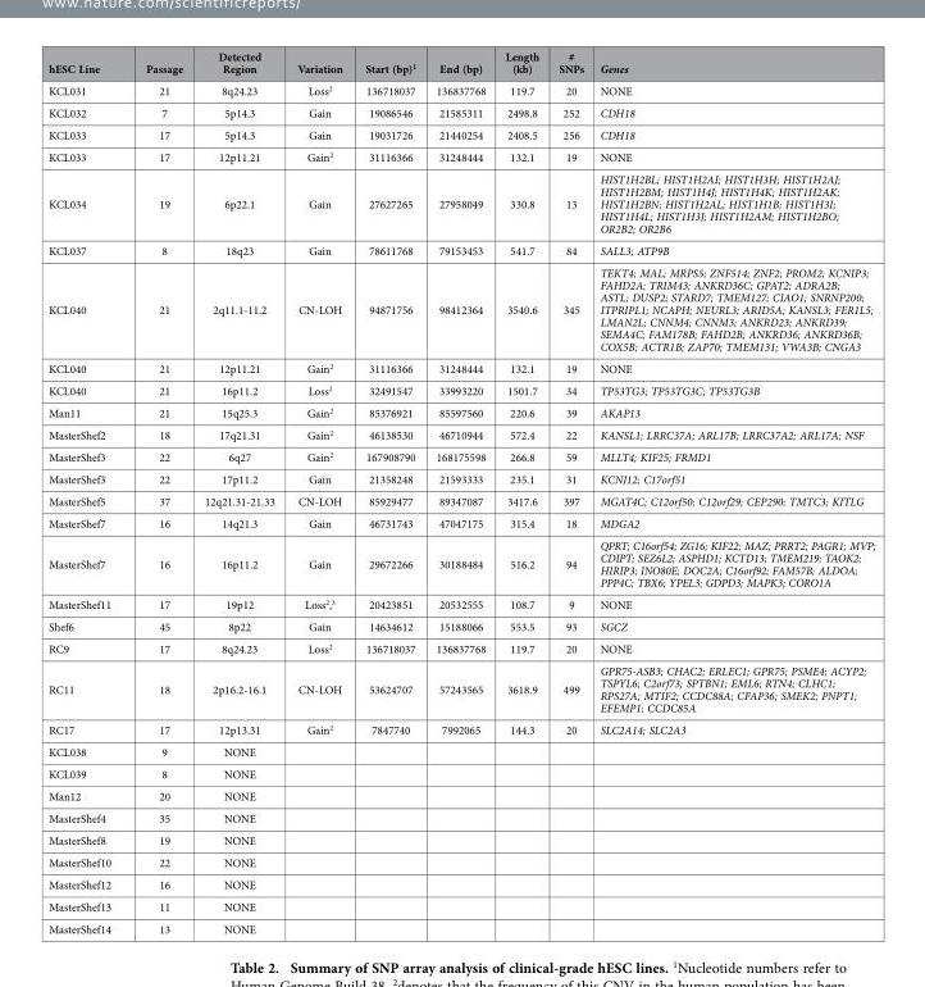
<table><thead><tr><td>hESC Line</td><td>Passage</td><td>Detected Region</td><td>Variation</td><td>Start (bp)<sup>1</sup></td><td>End (bp)</td><td>Length (kb)</td><td># SNPs</td><td>Genes</td></tr></thead><tbody><tr><td>KCL031</td><td>21</td><td>8q24.23</td><td>Loss<sup>2</sup></td><td>136718037</td><td>136837768</td><td>119.7</td><td>20</td><td>NONE</td></tr><tr><td>KCL032</td><td>7</td><td>5p14.3</td><td>Gain</td><td>19086546</td><td>21585311</td><td>2498.8</td><td>252</td><td>CDH18</td></tr><tr><td>KCL033</td><td>17</td><td>5p14.3</td><td>Gain</td><td>19031726</td><td>21440254</td><td>2408.5</td><td>256</td><td>CDH18</td></tr><tr><td>KCL033</td><td>17</td><td>12p11.21</td><td>Gain<sup>2</sup></td><td>31116366</td><td>31248444</td><td>132.1</td><td>19</td><td>NONE</td></tr><tr><td>KCL034</td><td>19</td><td>6p22.1</td><td>Gain</td><td>27627265</td><td>27958049</td><td>330.8</td><td>13</td><td>HIST1H2BL; HIST1H2AI; HIST1H3H; HIST1H2AJ; HIST1H2BM; HIST1H4J; HIST1H4K; HIST1H2AK; HIST1H2BN; HIST1H2AL; HIST1H1B; HIST1H3I; HIST1H4L; HIST1H3J; HIST1H2AM; HIST1H2BO; OR2B2; OR2B6</td></tr><tr><td>KCL037</td><td>8</td><td>18q23</td><td>Gain</td><td>78611768</td><td>79153453</td><td>541.7</td><td>84</td><td>SALL3; ATP9B</td></tr><tr><td>KCL040</td><td>21</td><td>2q11.1-11.2</td><td>CN-LOH</td><td>94871756</td><td>98412364</td><td>3540.6</td><td>345</td><td>TEKT4; MAL; MRPS5; ZNF514; ZNF2; PROM2; KCNIP3; FAHD2A; TRIM43; ANKRD36C; GPAT2; ADRA2B; ASTL; DUSP2; STARD7; TMEM127; CIAO1; SNRNP200; ITPRIPL1; NCAPH; NEURL3; ARID5A; KANSL3; FER1L5; LMAN2L; CNNM4; CNNM3; ANKRD23; ANKRD39; SEMA4C; FAM178B; FAHD2B; ANKRD36; ANKRD36B; COX5B; ACTR1B; ZAP70; TMEM131; VWA3B; CNGA3</td></tr><tr><td>KCL040</td><td>21</td><td>12p11.21</td><td>Gain<sup>2</sup></td><td>31116366</td><td>31248444</td><td>132.1</td><td>19</td><td>NONE</td></tr><tr><td>KCL040</td><td>21</td><td>16p11.2</td><td>Loss<sup>2</sup></td><td>32491547</td><td>33993220</td><td>1501.7</td><td>34</td><td>TP53TG3; TP53TG3C; TP53TG3B</td></tr><tr><td>Man11</td><td>21</td><td>15q25.3</td><td>Gain<sup>2</sup></td><td>85376921</td><td>85597560</td><td>220.6</td><td>39</td><td>AKAP13</td></tr><tr><td>MasterShef2</td><td>18</td><td>17q21.31</td><td>Gain<sup>2</sup></td><td>46138530</td><td>46710944</td><td>572.4</td><td>22</td><td>KANSL1; LRRC37A; ARL17B; LRRC37A2; ARL17A; NSF</td></tr><tr><td>MasterShef3</td><td>22</td><td>6q27</td><td>Gain<sup>2</sup></td><td>167908790</td><td>168175598</td><td>266.8</td><td>59</td><td>MLLT4; KIF25; FRMD1</td></tr><tr><td>MasterShef3</td><td>22</td><td>17p11.2</td><td>Gain</td><td>21358248</td><td>21593333</td><td>235.1</td><td>31</td><td>KCNJ12; C17orf51</td></tr><tr><td>MasterShef5</td><td>37</td><td>12q21.31-21.33</td><td>CN-LOH</td><td>85929477</td><td>89347087</td><td>3417.6</td><td>397</td><td>MGAT4C; C12orf50; C12orf29; CEP290; TMTC3; KITLG</td></tr><tr><td>MasterShef7</td><td>16</td><td>14q21.3</td><td>Gain</td><td>46731743</td><td>47047175</td><td>315.4</td><td>18</td><td>MDGA2</td></tr><tr><td>MasterShef7</td><td>16</td><td>16p11.2</td><td>Gain</td><td>29672266</td><td>30188484</td><td>516.2</td><td>94</td><td>QPRT; C16orf54; ZG16; KIF22; MAZ; PRRT2; PAGR1; MVP; CDIPT; SEZ6L2; ASPHD1; KCTD13; TMEM219; TAOK2; HIRIP3; INO80E; DOC2A; C16orf92; FAM57B; ALDOA; PPP4C; TBX6; YPEL3; GDPD3; MAPK3; CORO1A</td></tr><tr><td>MasterShef11</td><td>17</td><td>19p12</td><td>Loss<sup>2</sup>,<sup>3</sup></td><td>20423851</td><td>20532555</td><td>108.7</td><td>9</td><td>NONE</td></tr><tr><td>Shef6</td><td>45</td><td>8p22</td><td>Gain</td><td>14634612</td><td>15188066</td><td>553.5</td><td>93</td><td>SGCZ</td></tr><tr><td>RC9</td><td>17</td><td>8q24.23</td><td>Loss<sup>2</sup></td><td>136718037</td><td>136837768</td><td>119.7</td><td>20</td><td>NONE</td></tr><tr><td>RC11</td><td>18</td><td>2p16.2-16.1</td><td>CN-LOH</td><td>53624707</td><td>57243565</td><td>3618.9</td><td>499</td><td>GPR75-ASB3; CHAC2; ERLEC1; GPR75; PSME4; ACYP2; TSPYL6; C2orf73; SPTBN1; EML6; RTN4; CLHC1; RPS27A; MTIF2; CCDC88A; CFAP36; SMEK2; PNPT1; EFEMP1; CCDC85A</td></tr><tr><td>RC17</td><td>17</td><td>12p13.31</td><td>Gain<sup>2</sup></td><td>7847740</td><td>7992065</td><td>144.3</td><td>20</td><td>SLC2A14; SLC2A3</td></tr><tr><td>KCL038</td><td>9</td><td>NONE</td><td></td><td></td><td></td><td></td><td></td><td></td></tr><tr><td>KCL039</td><td>8</td><td>NONE</td><td></td><td></td><td></td><td></td><td></td><td></td></tr><tr><td>Man12</td><td>20</td><td>NONE</td><td></td><td></td><td></td><td></td><td></td><td></td></tr><tr><td>MasterShef4</td><td>35</td><td>NONE</td><td></td><td></td><td></td><td></td><td></td><td></td></tr><tr><td>MasterShef8</td><td>19</td><td>NONE</td><td></td><td></td><td></td><td></td><td></td><td></td></tr><tr><td>MasterShef10</td><td>22</td><td>NONE</td><td></td><td></td><td></td><td></td><td></td><td></td></tr><tr><td>MasterShef12</td><td>16</td><td>NONE</td><td></td><td></td><td></td><td></td><td></td><td></td></tr><tr><td>MasterShef13</td><td>11</td><td>NONE</td><td></td><td></td><td></td><td></td><td></td><td></td></tr><tr><td>MasterShef14</td><td>13</td><td>NONE</td><td></td><td></td><td></td><td></td><td></td><td></td></tr></tbody></table>